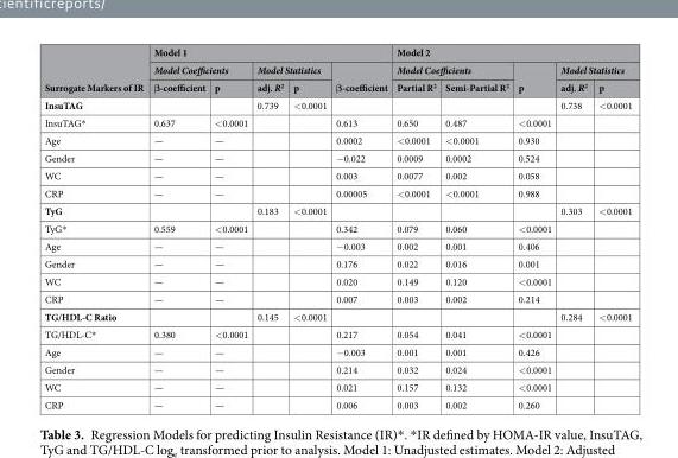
<table><thead><tr><td rowspan="3">Surrogate Markers of IR</td><td colspan="5">Model 1</td><td colspan="5">Model 2</td></tr><tr><td colspan="2">Model Coefficients</td><td colspan="2">Model Statistics</td><td rowspan="2">β-coefficient</td><td colspan="2">Model Coefficients</td><td rowspan="2">p</td><td colspan="2">Model Statistics</td></tr><tr><td>β-coefficient</td><td>p</td><td>adj. R<sup>2</sup></td><td>p</td><td>Partial R<sup>2</sup></td><td>Semi-Partial R<sup>2</sup></td><td>adj. R<sup>2</sup></td><td>p</td></tr></thead><tbody><tr><td>InsuTAG</td><td></td><td></td><td>0.739</td><td>&lt;0.0001</td><td></td><td></td><td></td><td></td><td>0.738</td><td>&lt;0.0001</td></tr><tr><td>InsuTAG*</td><td>0.637</td><td>&lt;0.0001</td><td></td><td></td><td>0.613</td><td>0.650</td><td>0.487</td><td>&lt;0.0001</td><td></td><td></td></tr><tr><td>Age</td><td>—</td><td>—</td><td></td><td></td><td>0.0002</td><td>&lt;0.0001</td><td>&lt;0.0001</td><td>0.930</td><td></td><td></td></tr><tr><td>Gender</td><td>—</td><td>—</td><td></td><td></td><td>−0.022</td><td>0.0009</td><td>0.0002</td><td>0.524</td><td></td><td></td></tr><tr><td>WC</td><td>—</td><td>—</td><td></td><td></td><td>0.003</td><td>0.0077</td><td>0.002</td><td>0.058</td><td></td><td></td></tr><tr><td>CRP</td><td>—</td><td>—</td><td></td><td></td><td>0.00005</td><td>&lt;0.0001</td><td>&lt;0.0001</td><td>0.988</td><td></td><td></td></tr><tr><td>TyG</td><td></td><td></td><td>0.183</td><td>&lt;0.0001</td><td></td><td></td><td></td><td></td><td>0.303</td><td>&lt;0.0001</td></tr><tr><td>TyG*</td><td>0.559</td><td>&lt;0.0001</td><td></td><td></td><td>0.342</td><td>0.079</td><td>0.060</td><td>&lt;0.0001</td><td></td><td></td></tr><tr><td>Age</td><td>—</td><td>—</td><td></td><td></td><td>−0.003</td><td>0.002</td><td>0.001</td><td>0.406</td><td></td><td></td></tr><tr><td>Gender</td><td>—</td><td>—</td><td></td><td></td><td>0.176</td><td>0.022</td><td>0.016</td><td>0.001</td><td></td><td></td></tr><tr><td>WC</td><td>—</td><td>—</td><td></td><td></td><td>0.020</td><td>0.149</td><td>0.120</td><td>&lt;0.0001</td><td></td><td></td></tr><tr><td>CRP</td><td>—</td><td>—</td><td></td><td></td><td>0.007</td><td>0.003</td><td>0.002</td><td>0.214</td><td></td><td></td></tr><tr><td>TG/HDL-C Ratio</td><td></td><td></td><td>0.145</td><td>&lt;0.0001</td><td></td><td></td><td></td><td></td><td>0.284</td><td>&lt;0.0001</td></tr><tr><td>TG/HDL-C*</td><td>0.380</td><td>&lt;0.0001</td><td></td><td></td><td>0.217</td><td>0.054</td><td>0.041</td><td>&lt;0.0001</td><td></td><td></td></tr><tr><td>Age</td><td>—</td><td>—</td><td></td><td></td><td>−0.003</td><td>0.001</td><td>0.001</td><td>0.426</td><td></td><td></td></tr><tr><td>Gender</td><td>—</td><td>—</td><td></td><td></td><td>0.214</td><td>0.032</td><td>0.024</td><td>&lt;0.0001</td><td></td><td></td></tr><tr><td>WC</td><td>—</td><td>—</td><td></td><td></td><td>0.021</td><td>0.157</td><td>0.132</td><td>&lt;0.0001</td><td></td><td></td></tr><tr><td>CRP</td><td>—</td><td>—</td><td></td><td></td><td>0.006</td><td>0.003</td><td>0.002</td><td>0.260</td><td></td><td></td></tr></tbody></table>